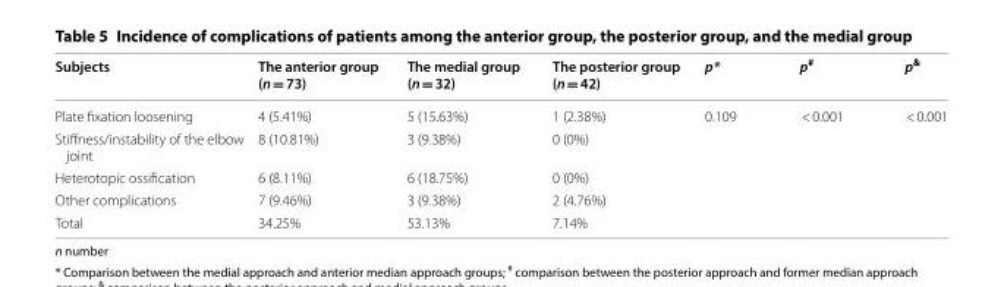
<table><thead><tr><td>Subjects</td><td>The anterior group (n = 73)</td><td>The medial group (n = 32)</td><td>The posterior group (n = 42)</td><td>p*</td><td>p<sup>#</sup></td><td>p<sup>&amp;</sup></td></tr></thead><tbody><tr><td>Plate fixation loosening</td><td>4 (5.41%)</td><td>5 (15.63%)</td><td>1 (2.38%)</td><td rowspan="4">0.109</td><td rowspan="4">&lt; 0.001</td><td rowspan="4">&lt; 0.001</td></tr><tr><td>Stiffness/instability of the elbow joint</td><td>8 (10.81%)</td><td>3 (9.38%)</td><td>0 (0%)</td></tr><tr><td>Heterotopic ossification</td><td>6 (8.11%)</td><td>6 (18.75%)</td><td>0 (0%)</td></tr><tr><td>Other complications</td><td>7 (9.46%)</td><td>3 (9.38%)</td><td>2 (4.76%)</td></tr><tr><td>Total</td><td>34.25%</td><td>53.13%</td><td>7.14%</td><td></td><td></td><td></td></tr></tbody></table>